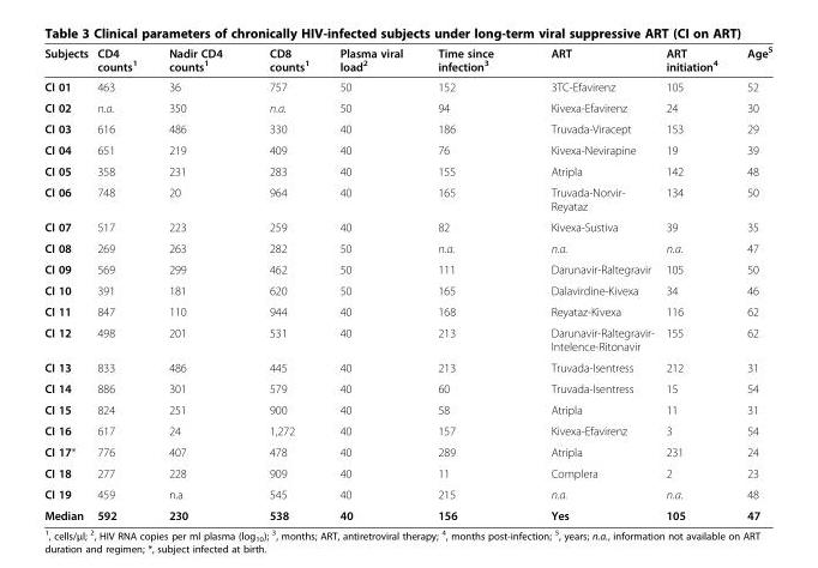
<table><thead><tr><td>Subjects</td><td>CD4 counts<sup>1</sup></td><td>Nadir CD4 counts<sup>1</sup></td><td>CD8 counts<sup>1</sup></td><td>Plasma viral load<sup>2</sup></td><td>Time since infection<sup>3</sup></td><td>ART</td><td>ART initiation<sup>4</sup></td><td>Age<sup>5</sup></td></tr></thead><tbody><tr><td>CI 01</td><td>463</td><td>36</td><td>757</td><td>50</td><td>152</td><td>3TC-Efavirenz</td><td>105</td><td>52</td></tr><tr><td>CI 02</td><td>n.a.</td><td>350</td><td>n.a.</td><td>50</td><td>94</td><td>Kivexa-Efavirenz</td><td>24</td><td>30</td></tr><tr><td>CI 03</td><td>616</td><td>486</td><td>330</td><td>40</td><td>186</td><td>Truvada-Viracept</td><td>153</td><td>29</td></tr><tr><td>CI 04</td><td>651</td><td>219</td><td>409</td><td>40</td><td>76</td><td>Kivexa-Nevirapine</td><td>19</td><td>39</td></tr><tr><td>CI 05</td><td>358</td><td>231</td><td>283</td><td>40</td><td>155</td><td>Atripla</td><td>142</td><td>48</td></tr><tr><td>CI 06</td><td>748</td><td>20</td><td>964</td><td>40</td><td>165</td><td>Truvada-Norvir- Reyataz</td><td>134</td><td>50</td></tr><tr><td>CI 07</td><td>517</td><td>223</td><td>259</td><td>40</td><td>82</td><td>Kivexa-Sustiva</td><td>39</td><td>35</td></tr><tr><td>CI 08</td><td>269</td><td>263</td><td>282</td><td>50</td><td>n.a.</td><td>n.a.</td><td>n.a.</td><td>47</td></tr><tr><td>CI 09</td><td>569</td><td>299</td><td>462</td><td>50</td><td>111</td><td>Darunavir-Raltegravir</td><td>105</td><td>50</td></tr><tr><td>CI 10</td><td>391</td><td>181</td><td>620</td><td>50</td><td>165</td><td>Dalavirdine-Kivexa</td><td>34</td><td>46</td></tr><tr><td>CI 11</td><td>847</td><td>110</td><td>944</td><td>40</td><td>168</td><td>Reyataz-Kivexa</td><td>116</td><td>62</td></tr><tr><td>CI 12</td><td>498</td><td>201</td><td>531</td><td>40</td><td>213</td><td>Darunavir-Raltegravir- Intelence-Ritonavir</td><td>155</td><td>62</td></tr><tr><td>CI 13</td><td>833</td><td>486</td><td>445</td><td>40</td><td>213</td><td>Truvada-Isentress</td><td>212</td><td>31</td></tr><tr><td>CI 14</td><td>886</td><td>301</td><td>579</td><td>40</td><td>60</td><td>Truvada-Isentress</td><td>15</td><td>54</td></tr><tr><td>CI 15</td><td>824</td><td>251</td><td>900</td><td>40</td><td>58</td><td>Atripla</td><td>11</td><td>31</td></tr><tr><td>CI 16</td><td>617</td><td>24</td><td>1,272</td><td>40</td><td>157</td><td>Kivexa-Efavirenz</td><td>3</td><td>54</td></tr><tr><td>CI 17*</td><td>776</td><td>407</td><td>478</td><td>40</td><td>289</td><td>Atripla</td><td>231</td><td>24</td></tr><tr><td>CI 18</td><td>277</td><td>228</td><td>909</td><td>40</td><td>11</td><td>Complera</td><td>2</td><td>23</td></tr><tr><td>CI 19</td><td>459</td><td>n.a</td><td>545</td><td>40</td><td>215</td><td>n.a.</td><td>n.a.</td><td>48</td></tr><tr><td>Median</td><td>592</td><td>230</td><td>538</td><td>40</td><td>156</td><td>Yes</td><td>105</td><td>47</td></tr></tbody></table>